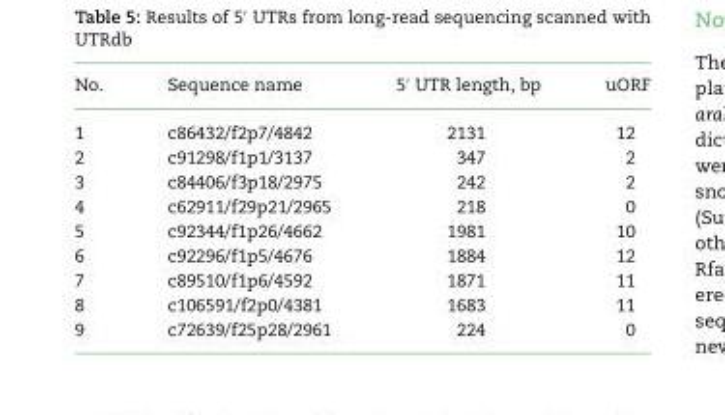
<table><thead><tr><td>No.</td><td>Sequence name</td><td>5′ UTR length, bp</td><td>uORF</td></tr></thead><tbody><tr><td>1</td><td>c86432/f2p7/4842</td><td>2131</td><td>12</td></tr><tr><td>2</td><td>c91298/f1p1/3137</td><td>347</td><td>2</td></tr><tr><td>3</td><td>c84406/f3p18/2975</td><td>242</td><td>2</td></tr><tr><td>4</td><td>c62911/f29p21/2965</td><td>218</td><td>0</td></tr><tr><td>5</td><td>c92344/f1p26/4662</td><td>1981</td><td>10</td></tr><tr><td>6</td><td>c92296/f1p5/4676</td><td>1884</td><td>12</td></tr><tr><td>7</td><td>c89510/f1p6/4592</td><td>1871</td><td>11</td></tr><tr><td>8</td><td>c106591/f2p0/4381</td><td>1683</td><td>11</td></tr><tr><td>9</td><td>c72639/f25p28/2961</td><td>224</td><td>0</td></tr></tbody></table>